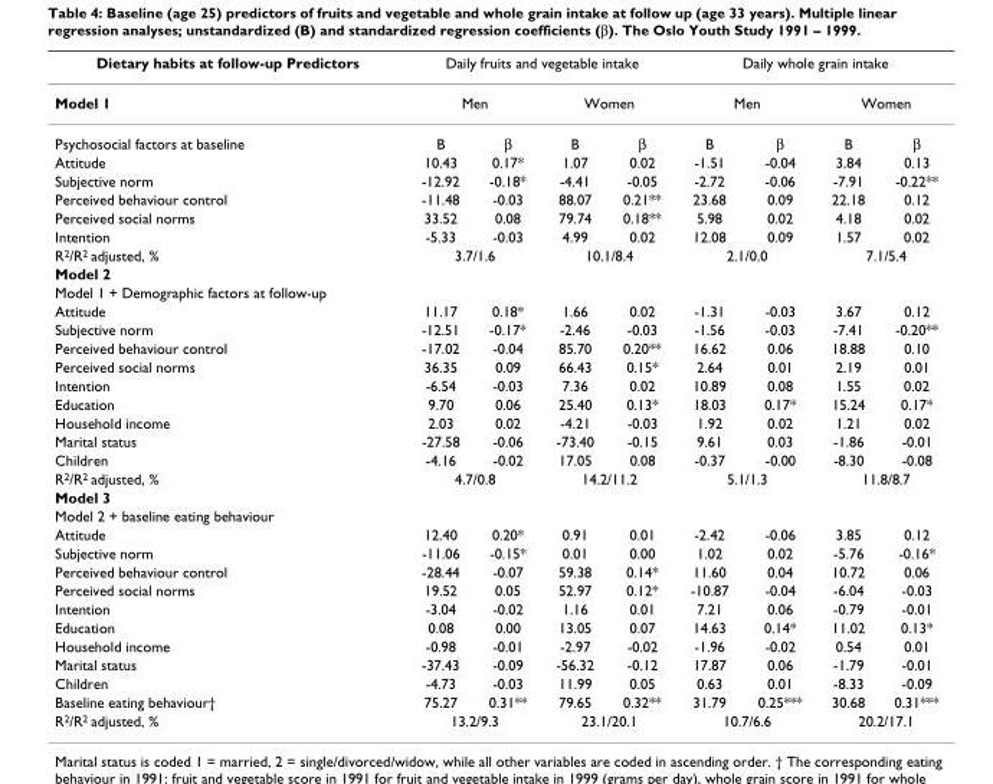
<table><thead><tr><td rowspan="3">Dietary habits at follow-up Predictors Model 1 Psychosocial factors at baseline</td><td colspan="4">Daily fruits and vegetable intake</td><td colspan="4">Daily whole grain intake</td></tr><tr><td colspan="2">Men</td><td colspan="2">Women</td><td colspan="2">Men</td><td colspan="2">Women</td></tr><tr><td>B</td><td>β</td><td>B</td><td>β</td><td>B</td><td>β</td><td>B</td><td>β</td></tr></thead><tbody><tr><td>Attitude</td><td>10.43</td><td>0.17*</td><td>1.07</td><td>0.02</td><td>-1.51</td><td>-0.04</td><td>3.84</td><td>0.13</td></tr><tr><td>Subjective norm</td><td>-12.92</td><td>-0.18*</td><td>-4.41</td><td>-0.05</td><td>-2.72</td><td>-0.06</td><td>-7.91</td><td>-0.22**</td></tr><tr><td>Perceived behaviour control</td><td>-11.48</td><td>-0.03</td><td>88.07</td><td>0.21**</td><td>23.68</td><td>0.09</td><td>22.18</td><td>0.12</td></tr><tr><td>Perceived social norms</td><td>33.52</td><td>0.08</td><td>79.74</td><td>0.18**</td><td>5.98</td><td>0.02</td><td>4.18</td><td>0.02</td></tr><tr><td>Intention</td><td>-5.33</td><td>-0.03</td><td>4.99</td><td>0.02</td><td>12.08</td><td>0.09</td><td>1.57</td><td>0.02</td></tr><tr><td>R<sup>2</sup>/R<sup>2</sup> adjusted, %</td><td colspan="2">3.7/1.6</td><td colspan="2">10.1/8.4</td><td colspan="2">2.1/0.0</td><td colspan="2">7.1/5.4</td></tr><tr><td colspan="9">Model 2</td></tr><tr><td colspan="9">Model 1 + Demographic factors at follow-up</td></tr><tr><td>Attitude</td><td>11.17</td><td>0.18*</td><td>1.66</td><td>0.02</td><td>-1.31</td><td>-0.03</td><td>3.67</td><td>0.12</td></tr><tr><td>Subjective norm</td><td>-12.51</td><td>-0.17*</td><td>-2.46</td><td>-0.03</td><td>-1.56</td><td>-0.03</td><td>-7.41</td><td>-0.20**</td></tr><tr><td>Perceived behaviour control</td><td>-17.02</td><td>-0.04</td><td>85.70</td><td>0.20**</td><td>16.62</td><td>0.06</td><td>18.88</td><td>0.10</td></tr><tr><td>Perceived social norms</td><td>36.35</td><td>0.09</td><td>66.43</td><td>0.15*</td><td>2.64</td><td>0.01</td><td>2.19</td><td>0.01</td></tr><tr><td>Intention</td><td>-6.54</td><td>-0.03</td><td>7.36</td><td>0.02</td><td>10.89</td><td>0.08</td><td>1.55</td><td>0.02</td></tr><tr><td>Education</td><td>9.70</td><td>0.06</td><td>25.40</td><td>0.13*</td><td>18.03</td><td>0.17*</td><td>15.24</td><td>0.17*</td></tr><tr><td>Household income</td><td>2.03</td><td>0.02</td><td>-4.21</td><td>-0.03</td><td>1.92</td><td>0.02</td><td>1.21</td><td>0.02</td></tr><tr><td>Marital status</td><td>-27.58</td><td>-0.06</td><td>-73.40</td><td>-0.15</td><td>9.61</td><td>0.03</td><td>-1.86</td><td>-0.01</td></tr><tr><td>Children</td><td>-4.16</td><td>-0.02</td><td>17.05</td><td>0.08</td><td>-0.37</td><td>-0.00</td><td>-8.30</td><td>-0.08</td></tr><tr><td>R<sup>2</sup>/R<sup>2</sup> adjusted, %</td><td colspan="2">4.7/0.8</td><td colspan="2">14.2/11.2</td><td colspan="2">5.1/1.3</td><td colspan="2">11.8/8.7</td></tr><tr><td colspan="9">Model 3</td></tr><tr><td colspan="9">Model 2 + baseline eating behaviour</td></tr><tr><td>Attitude</td><td>12.40</td><td>0.20*</td><td>0.91</td><td>0.01</td><td>-2.42</td><td>-0.06</td><td>3.85</td><td>0.12</td></tr><tr><td>Subjective norm</td><td>-11.06</td><td>-0.15*</td><td>0.01</td><td>0.00</td><td>1.02</td><td>0.02</td><td>-5.76</td><td>-0.16*</td></tr><tr><td>Perceived behaviour control</td><td>-28.44</td><td>-0.07</td><td>59.38</td><td>0.14*</td><td>11.60</td><td>0.04</td><td>10.72</td><td>0.06</td></tr><tr><td>Perceived social norms</td><td>19.52</td><td>0.05</td><td>52.97</td><td>0.12*</td><td>-10.87</td><td>-0.04</td><td>-6.04</td><td>-0.03</td></tr><tr><td>Intention</td><td>-3.04</td><td>-0.02</td><td>1.16</td><td>0.01</td><td>7.21</td><td>0.06</td><td>-0.79</td><td>-0.01</td></tr><tr><td>Education</td><td>0.08</td><td>0.00</td><td>13.05</td><td>0.07</td><td>14.63</td><td>0.14*</td><td>11.02</td><td>0.13*</td></tr><tr><td>Household income</td><td>-0.98</td><td>-0.01</td><td>-2.97</td><td>-0.02</td><td>-1.96</td><td>-0.02</td><td>0.54</td><td>0.01</td></tr><tr><td>Marital status</td><td>-37.43</td><td>-0.09</td><td>-56.32</td><td>-0.12</td><td>17.87</td><td>0.06</td><td>-1.79</td><td>-0.01</td></tr><tr><td>Children</td><td>-4.73</td><td>-0.03</td><td>11.99</td><td>0.05</td><td>0.63</td><td>0.01</td><td>-8.33</td><td>-0.09</td></tr><tr><td>Baseline eating behaviour†</td><td>75.27</td><td>0.31**</td><td>79.65</td><td>0.32**</td><td>31.79</td><td>0.25***</td><td>30.68</td><td>0.31***</td></tr><tr><td>R<sup>2</sup>/R<sup>2</sup> adjusted, %</td><td colspan="2">13.2/9.3</td><td colspan="2">23.1/20.1</td><td colspan="2">10.7/6.6</td><td colspan="2">20.2/17.1</td></tr></tbody></table>